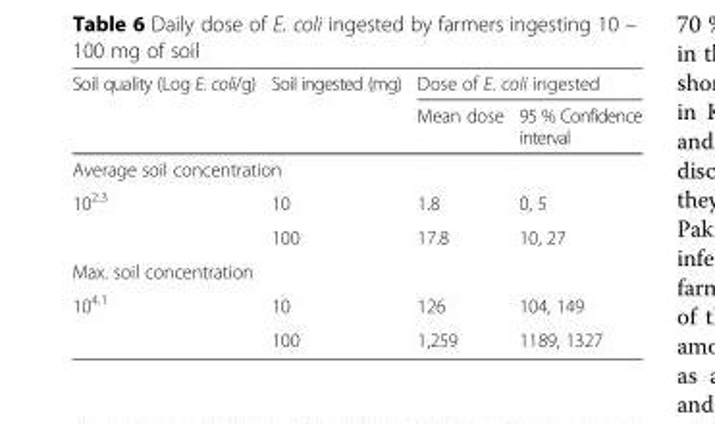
<table><thead><tr><td rowspan="2">Soil quality (Log E. coli/g)</td><td rowspan="2">Soil ingested (mg)</td><td colspan="2">Dose of E. coli ingested</td></tr><tr><td>Mean dose</td><td>95 % Confidence interval</td></tr></thead><tbody><tr><td colspan="4">Average soil concentration</td></tr><tr><td rowspan="2">10<sup>2.3</sup></td><td>10</td><td>1.8</td><td>0, 5</td></tr><tr><td>100</td><td>17.8</td><td>10, 27</td></tr><tr><td colspan="4">Max. soil concentration</td></tr><tr><td rowspan="2">10<sup>4.1</sup></td><td>10</td><td>126</td><td>104, 149</td></tr><tr><td>100</td><td>1,259</td><td>1189, 1327</td></tr></tbody></table>